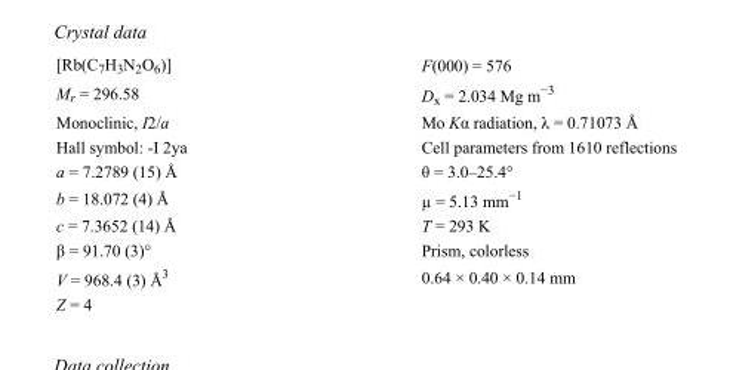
<table><tbody><tr><td>[Rb(C<sub>7</sub>H<sub>3</sub>N<sub>2</sub>O<sub>6</sub>)]</td><td>F(000) = 576</td></tr><tr><td>M<sub>r</sub> = 296.58</td><td>D<sub>x</sub> = 2.034 Mg m<sup>−3</sup></td></tr><tr><td>Monoclinic, I2/a</td><td>Mo Kα radiation, λ = 0.71073 Å</td></tr><tr><td>Hall symbol: -I 2ya</td><td>Cell parameters from 1610 reflections</td></tr><tr><td>a = 7.2789 (15) Å</td><td>θ = 3.0–25.4°</td></tr><tr><td>b = 18.072 (4) Å</td><td>µ = 5.13 mm<sup>−1</sup></td></tr><tr><td>c = 7.3652 (14) Å</td><td>T = 293 K</td></tr><tr><td>β = 91.70 (3)°</td><td>Prism, colorless</td></tr><tr><td>V = 968.4 (3) Å<sup>3</sup></td><td>0.64 × 0.40 × 0.14 mm</td></tr><tr><td>Z = 4</td><td></td></tr></tbody></table>